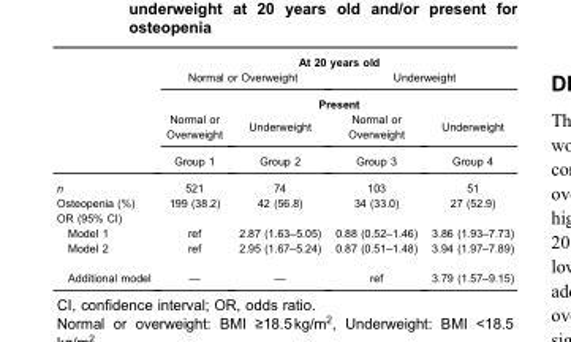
<table><thead><tr><td rowspan="5"></td><td colspan="4">At 20 years old</td></tr><tr><td colspan="2">Normal or Overweight</td><td colspan="2">Underweight</td></tr><tr><td colspan="4">Present</td></tr><tr><td rowspan="2">Normal or Overweight Group 1</td><td rowspan="2">Underweight Group 2</td><td rowspan="2">Normal or Overweight Group 3</td><td rowspan="2">Underweight Group 4</td></tr><tr></tr></thead><tbody><tr><td>n</td><td>521</td><td>74</td><td>103</td><td>51</td></tr><tr><td>Osteopenia (%)</td><td>199 (38.2)</td><td>42 (56.8)</td><td>34 (33.0)</td><td>27 (52.9)</td></tr><tr><td colspan="5">OR (95% CI)</td></tr><tr><td>Model 1</td><td>ref</td><td>2.87 (1.63–5.05)</td><td>0.88 (0.52–1.46)</td><td>3.86 (1.93–7.73)</td></tr><tr><td>Model 2</td><td>ref</td><td>2.95 (1.67–5.24)</td><td>0.87 (0.51–1.48)</td><td>3.94 (1.97–7.89)</td></tr><tr><td>Additional model</td><td>—</td><td>—</td><td>ref</td><td>3.79 (1.57–9.15)</td></tr></tbody></table>